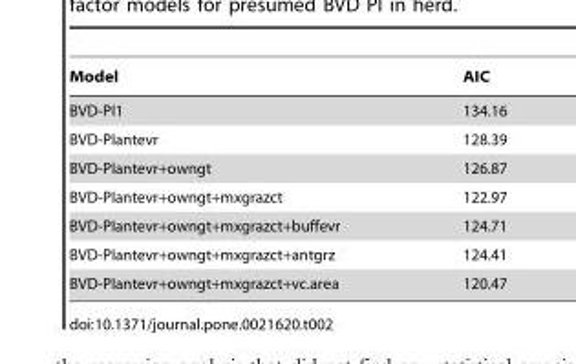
<table><thead><tr><td>Model</td><td>AIC</td></tr></thead><tbody><tr><td>BVD-PI1</td><td>134.16</td></tr><tr><td>BVD-PIantevr</td><td>128.39</td></tr><tr><td>BVD-PIantevr+owngt</td><td>126.87</td></tr><tr><td>BVD-PIantevr+owngt+mxgrazct</td><td>122.97</td></tr><tr><td>BVD-PIantevr+owngt+mxgrazct+buffevr</td><td>124.71</td></tr><tr><td>BVD-PIantevr+owngt+mxgrazct+antgrz</td><td>124.41</td></tr><tr><td>BVD-PIantevr+owngt+mxgrazct+vc.area</td><td>120.47</td></tr></tbody></table>